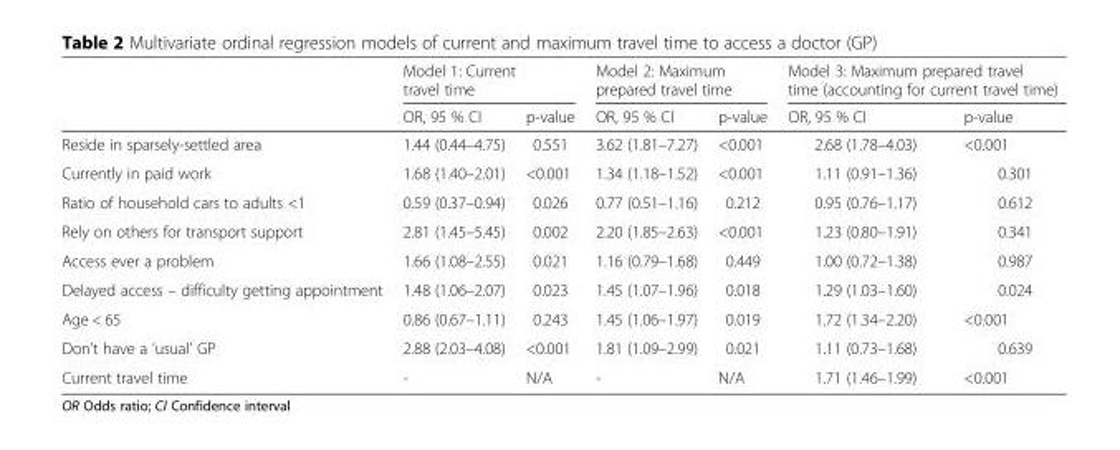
<table><thead><tr><td rowspan="2"></td><td colspan="2">Model 1: Current travel time</td><td colspan="2">Model 2: Maximum prepared travel time</td><td colspan="2">Model 3: Maximum prepared travel time (accounting for current travel time)</td></tr><tr><td>OR, 95 % CI</td><td>p-value</td><td>OR, 95 % CI</td><td>p-value</td><td>OR, 95 % CI</td><td>p-value</td></tr></thead><tbody><tr><td>Reside in sparsely-settled area</td><td>1.44 (0.44–4.75)</td><td>0.551</td><td>3.62 (1.81–7.27)</td><td>&lt;0.001</td><td>2.68 (1.78–4.03)</td><td>&lt;0.001</td></tr><tr><td>Currently in paid work</td><td>1.68 (1.40–2.01)</td><td>&lt;0.001</td><td>1.34 (1.18–1.52)</td><td>&lt;0.001</td><td>1.11 (0.91–1.36)</td><td>0.301</td></tr><tr><td>Ratio of household cars to adults &lt;1</td><td>0.59 (0.37–0.94)</td><td>0.026</td><td>0.77 (0.51–1.16)</td><td>0.212</td><td>0.95 (0.76–1.17)</td><td>0.612</td></tr><tr><td>Rely on others for transport support</td><td>2.81 (1.45–5.45)</td><td>0.002</td><td>2.20 (1.85–2.63)</td><td>&lt;0.001</td><td>1.23 (0.80–1.91)</td><td>0.341</td></tr><tr><td>Access ever a problem</td><td>1.66 (1.08–2.55)</td><td>0.021</td><td>1.16 (0.79–1.68)</td><td>0.449</td><td>1.00 (0.72–1.38)</td><td>0.987</td></tr><tr><td>Delayed access – difficulty getting appointment</td><td>1.48 (1.06–2.07)</td><td>0.023</td><td>1.45 (1.07–1.96)</td><td>0.018</td><td>1.29 (1.03–1.60)</td><td>0.024</td></tr><tr><td>Age &lt; 65</td><td>0.86 (0.67–1.11)</td><td>0.243</td><td>1.45 (1.06–1.97)</td><td>0.019</td><td>1.72 (1.34–2.20)</td><td>&lt;0.001</td></tr><tr><td>Don’t have a ‘usual’ GP</td><td>2.88 (2.03–4.08)</td><td>&lt;0.001</td><td>1.81 (1.09–2.99)</td><td>0.021</td><td>1.11 (0.73–1.68)</td><td>0.639</td></tr><tr><td>Current travel time</td><td>-</td><td>N/A</td><td>-</td><td>N/A</td><td>1.71 (1.46–1.99)</td><td>&lt;0.001</td></tr></tbody></table>